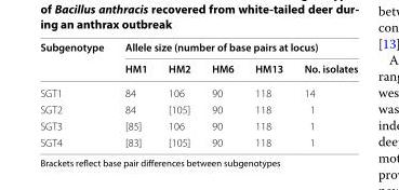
<table><thead><tr><td rowspan="2">Subgenotype</td><td colspan="5">Allele size (number of base pairs at locus)</td></tr><tr><td>HM1</td><td>HM2</td><td>HM6</td><td>HM13</td><td>No. isolates</td></tr></thead><tbody><tr><td>SGT1</td><td>84</td><td>106</td><td>90</td><td>118</td><td>14</td></tr><tr><td>SGT2</td><td>84</td><td>[105]</td><td>90</td><td>118</td><td>1</td></tr><tr><td>SGT3</td><td>[85]</td><td>106</td><td>90</td><td>118</td><td>1</td></tr><tr><td>SGT4</td><td>[83]</td><td>[105]</td><td>90</td><td>118</td><td>1</td></tr></tbody></table>